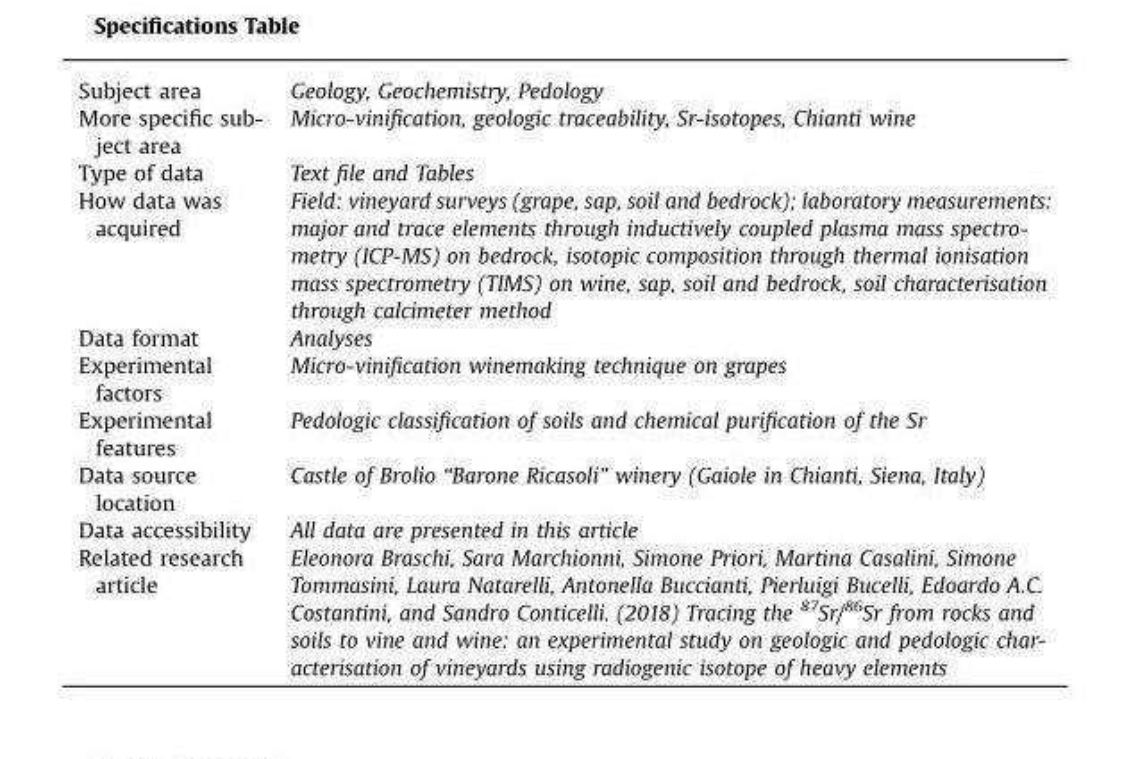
<table><tbody><tr><td>Subject area</td><td>Geology, Geochemistry, Pedology</td></tr><tr><td>More specific sub- ject area</td><td>Micro-vinification, geologic traceability, Sr-isotopes, Chianti wine</td></tr><tr><td>Type of data</td><td>Text file and Tables</td></tr><tr><td>How data was acquired</td><td>Field: vineyard surveys (grape, sap, soil and bedrock); laboratory measurements: major and trace elements through inductively coupled plasma mass spectro- metry (ICP-MS) on bedrock, isotopic composition through thermal ionisation mass spectrometry (TIMS) on wine, sap, soil and bedrock, soil characterisation through calcimeter method</td></tr><tr><td>Data format</td><td>Analyses</td></tr><tr><td>Experimental factors</td><td>Micro-vinification winemaking technique on grapes</td></tr><tr><td>Experimental features</td><td>Pedologic classification of soils and chemical purification of the Sr</td></tr><tr><td>Data source location</td><td>Castle of Brolio “Barone Ricasoli” winery (Gaiole in Chianti, Siena, Italy)</td></tr><tr><td>Data accessibility</td><td>All data are presented in this article</td></tr><tr><td>Related research article</td><td>Eleonora Braschi, Sara Marchionni, Simone Priori, Martina Casalini, Simone Tommasini, Laura Natarelli, Antonella Buccianti, Pierluigi Bucelli, Edoardo A.C. Costantini, and Sandro Conticelli. (2018) Tracing the 87Sr/86Sr from rocks and soils to vine and wine: an experimental study on geologic and pedologic char- acterisation of vineyards using radiogenic isotope of heavy elements</td></tr></tbody></table>